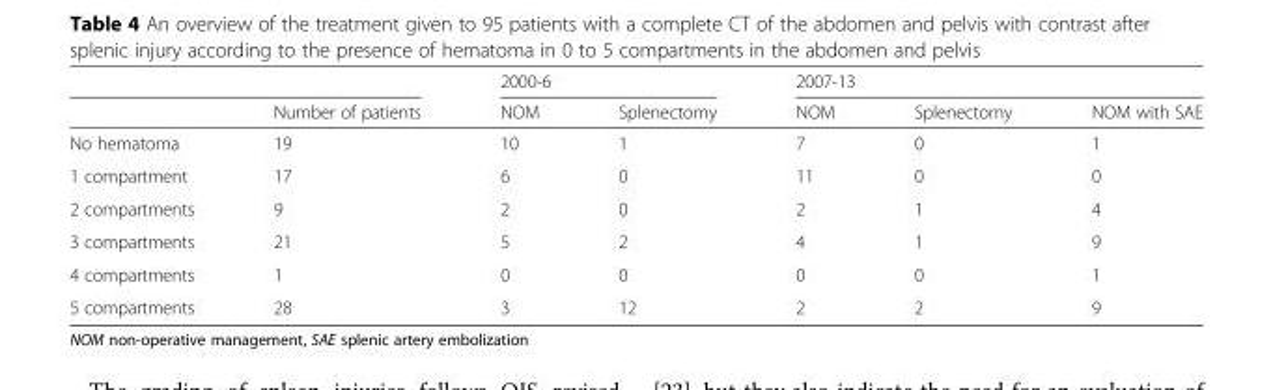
<table><thead><tr><td rowspan="2"></td><td rowspan="2">Number of patients</td><td colspan="2">2000-6</td><td colspan="3">2007-13</td></tr><tr><td>NOM</td><td>Splenectomy</td><td>NOM</td><td>Splenectomy</td><td>NOM with SAE</td></tr></thead><tbody><tr><td>No hematoma</td><td>19</td><td>10</td><td>1</td><td>7</td><td>0</td><td>1</td></tr><tr><td>1 compartment</td><td>17</td><td>6</td><td>0</td><td>11</td><td>0</td><td>0</td></tr><tr><td>2 compartments</td><td>9</td><td>2</td><td>0</td><td>2</td><td>1</td><td>4</td></tr><tr><td>3 compartments</td><td>21</td><td>5</td><td>2</td><td>4</td><td>1</td><td>9</td></tr><tr><td>4 compartments</td><td>1</td><td>0</td><td>0</td><td>0</td><td>0</td><td>1</td></tr><tr><td>5 compartments</td><td>28</td><td>3</td><td>12</td><td>2</td><td>2</td><td>9</td></tr></tbody></table>